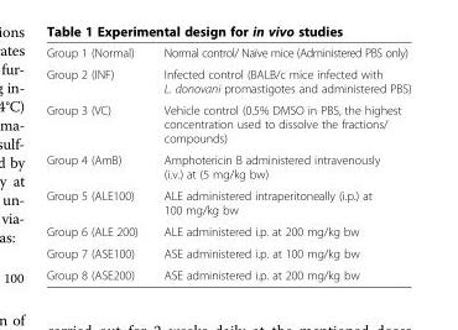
<table><tbody><tr><td>Group 1 (Normal)</td><td>Normal control/ Naïve mice (Administered PBS only)</td></tr><tr><td>Group 2 (INF)</td><td>Infected control (BALB/c mice infected with L. donovani promastigotes and administered PBS)</td></tr><tr><td>Group 3 (VC)</td><td>Vehicle control (0.5% DMSO in PBS, the highest concentration used to dissolve the fractions/ compounds)</td></tr><tr><td>Group 4 (AmB)</td><td>Amphotericin B administered intravenously (i.v.) at (5 mg/kg bw)</td></tr><tr><td>Group 5 (ALE100)</td><td>ALE administered intraperitoneally (i.p.) at 100 mg/kg bw</td></tr><tr><td>Group 6 (ALE 200)</td><td>ALE administered i.p. at 200 mg/kg bw</td></tr><tr><td>Group 7 (ASE100)</td><td>ASE administered i.p. at 100 mg/kg bw</td></tr><tr><td>Group 8 (ASE200)</td><td>ASE administered i.p. at 200 mg/kg bw</td></tr></tbody></table>